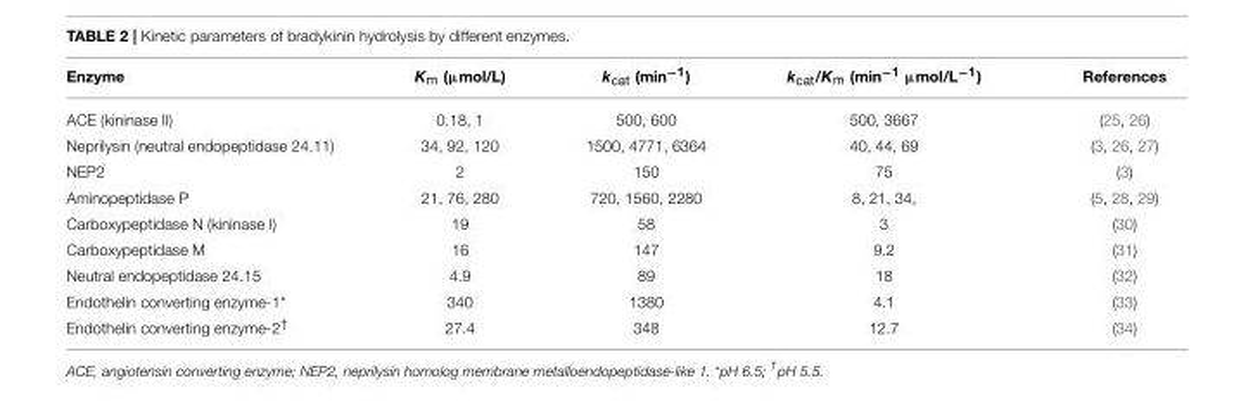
<table><thead><tr><td>Enzyme</td><td>K<sub>m</sub> (µmol/L)</td><td>k<sub>cat</sub> (min<sup>−1</sup>)</td><td>k<sub>cat</sub>/K<sub>m</sub> (min<sup>−1</sup> µmol/L<sup>−1</sup>)</td><td>References</td></tr></thead><tbody><tr><td>ACE (kininase II)</td><td>0.18, 1</td><td>500, 600</td><td>500, 3667</td><td>(25, 26)</td></tr><tr><td>Neprilysin (neutral endopeptidase 24.11)</td><td>34, 92, 120</td><td>1500, 4771, 6364</td><td>40, 44, 69</td><td>(3, 26, 27)</td></tr><tr><td>NEP2</td><td>2</td><td>150</td><td>75</td><td>(3)</td></tr><tr><td>Aminopeptidase P</td><td>21, 76, 280</td><td>720, 1560, 2280</td><td>8, 21, 34,</td><td>(5, 28, 29)</td></tr><tr><td>Carboxypeptidase N (kininase I)</td><td>19</td><td>58</td><td>3</td><td>(30)</td></tr><tr><td>Carboxypeptidase M</td><td>16</td><td>147</td><td>9.2</td><td>(31)</td></tr><tr><td>Neutral endopeptidase 24.15</td><td>4.9</td><td>89</td><td>18</td><td>(32)</td></tr><tr><td>Endothelin converting enzyme-1*</td><td>340</td><td>1380</td><td>4.1</td><td>(33)</td></tr><tr><td>Endothelin converting enzyme-2<sup>†</sup></td><td>27.4</td><td>348</td><td>12.7</td><td>(34)</td></tr></tbody></table>